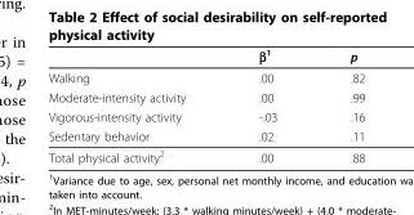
<table><thead><tr><td></td><td>β<sup>1</sup></td><td>p</td></tr></thead><tbody><tr><td>Walking</td><td>.00</td><td>.82</td></tr><tr><td>Moderate-intensity activity</td><td>.00</td><td>.99</td></tr><tr><td>Vigorous-intensity activity</td><td>-.03</td><td>.16</td></tr><tr><td>Sedentary behavior</td><td>.02</td><td>.11</td></tr><tr><td>Total physical activity<sup>2</sup></td><td>.00</td><td>.88</td></tr></tbody></table>